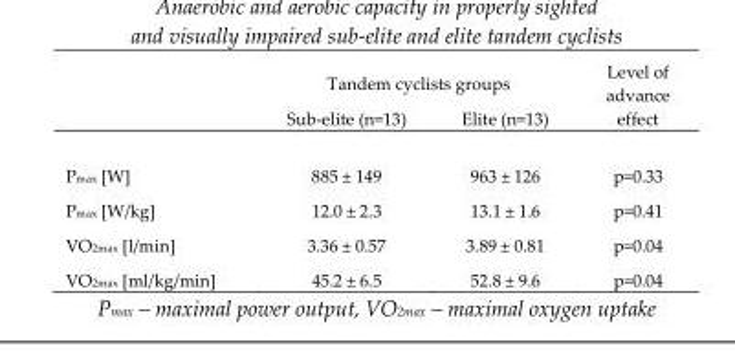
<table><thead><tr><td rowspan="2"></td><td colspan="2">Tandem cyclists groups</td><td rowspan="2">Level of advance effect</td></tr><tr><td>Sub-elite (n=13)</td><td>Elite (n=13)</td></tr></thead><tbody><tr><td>P<sub>max</sub> [W]</td><td>885 ± 149</td><td>963 ± 126</td><td>p=0.33</td></tr><tr><td>P<sub>max</sub> [W/kg]</td><td>12.0 ± 2.3</td><td>13.1 ± 1.6</td><td>p=0.41</td></tr><tr><td>VO<sub>2max</sub> [l/min]</td><td>3.36 ± 0.57</td><td>3.89 ± 0.81</td><td>p=0.04</td></tr><tr><td>VO<sub>2max</sub> [ml/kg/min]</td><td>45.2 ± 6.5</td><td>52.8 ± 9.6</td><td>p=0.04</td></tr></tbody></table>